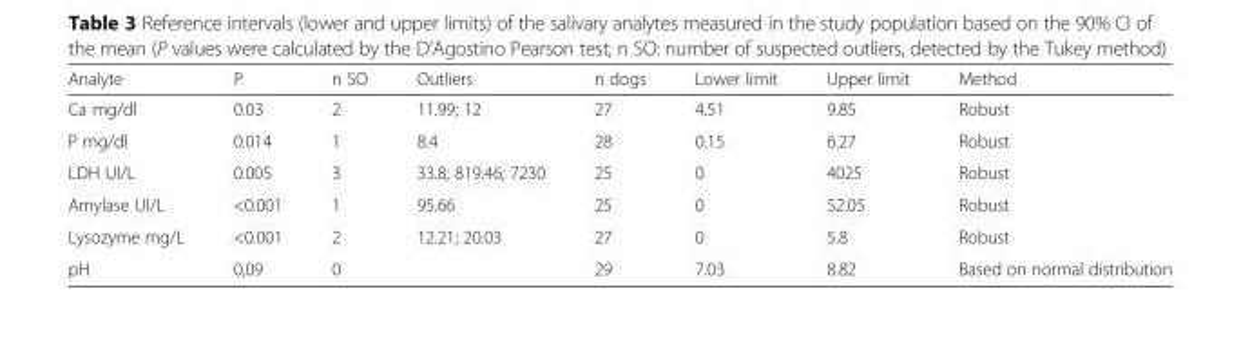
<table><thead><tr><td>Analyte</td><td>P</td><td>n SO</td><td>Outliers</td><td>n dogs</td><td>Lower limit</td><td>Upper limit</td><td>Method</td></tr></thead><tbody><tr><td>Ca mg/dl</td><td>0.03</td><td>2</td><td>11.99; 12</td><td>27</td><td>4.51</td><td>9.85</td><td>Robust</td></tr><tr><td>P mg/dl</td><td>0.014</td><td>1</td><td>8.4</td><td>28</td><td>0.15</td><td>6.27</td><td>Robust</td></tr><tr><td>LDH UI/L</td><td>0.005</td><td>3</td><td>33.8; 819.46; 7230</td><td>25</td><td>0</td><td>4025</td><td>Robust</td></tr><tr><td>Amylase UI/L</td><td>&lt;0.001</td><td>1</td><td>95.66</td><td>25</td><td>0</td><td>52.05</td><td>Robust</td></tr><tr><td>Lysozyme mg/L</td><td>&lt;0.001</td><td>2</td><td>12.21; 20.03</td><td>27</td><td>0</td><td>5.8</td><td>Robust</td></tr><tr><td>pH</td><td>0,09</td><td>0</td><td></td><td>29</td><td>7.03</td><td>8.82</td><td>Based on normal distribution</td></tr></tbody></table>